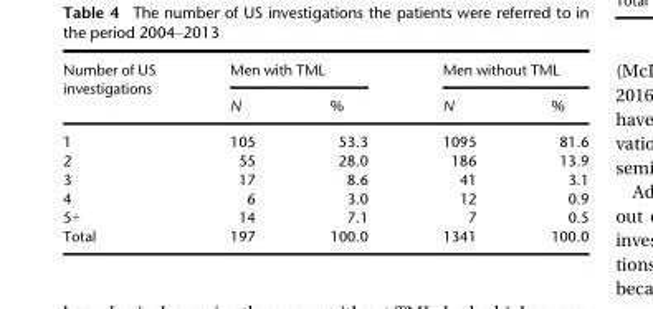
<table><thead><tr><td rowspan="2">Number of US investigations</td><td colspan="2">Men with TML</td><td colspan="2">Men without TML</td></tr><tr><td>N</td><td>%</td><td>N</td><td>%</td></tr></thead><tbody><tr><td>1</td><td>105</td><td>53.3</td><td>1095</td><td>81.6</td></tr><tr><td>2</td><td>55</td><td>28.0</td><td>186</td><td>13.9</td></tr><tr><td>3</td><td>17</td><td>8.6</td><td>41</td><td>3.1</td></tr><tr><td>4</td><td>6</td><td>3.0</td><td>12</td><td>0.9</td></tr><tr><td>5+</td><td>14</td><td>7.1</td><td>7</td><td>0.5</td></tr><tr><td>Total</td><td>197</td><td>100.0</td><td>1341</td><td>100.0</td></tr></tbody></table>